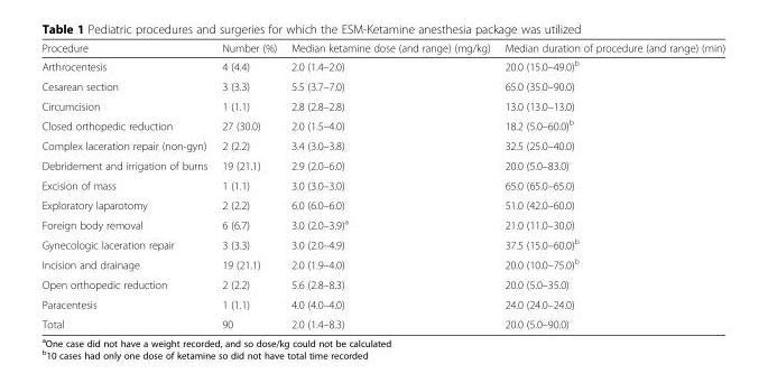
<table><thead><tr><td>Procedure</td><td>Number (%)</td><td>Median ketamine dose (and range) (mg/kg)</td><td>Median duration of procedure (and range) (min)</td></tr></thead><tbody><tr><td>Arthrocentesis</td><td>4 (4.4)</td><td>2.0 (1.4–2.0)</td><td>20.0 (15.0–49.0)<sup>b</sup></td></tr><tr><td>Cesarean section</td><td>3 (3.3)</td><td>5.5 (3.7–7.0)</td><td>65.0 (35.0–90.0)</td></tr><tr><td>Circumcision</td><td>1 (1.1)</td><td>2.8 (2.8–2.8)</td><td>13.0 (13.0–13.0)</td></tr><tr><td>Closed orthopedic reduction</td><td>27 (30.0)</td><td>2.0 (1.5–4.0)</td><td>18.2 (5.0–60.0)<sup>b</sup></td></tr><tr><td>Complex laceration repair (non-gyn)</td><td>2 (2.2)</td><td>3.4 (3.0–3.8)</td><td>32.5 (25.0–40.0)</td></tr><tr><td>Debridement and irrigation of burns</td><td>19 (21.1)</td><td>2.9 (2.0–6.0)</td><td>20.0 (5.0–83.0)</td></tr><tr><td>Excision of mass</td><td>1 (1.1)</td><td>3.0 (3.0–3.0)</td><td>65.0 (65.0–65.0)</td></tr><tr><td>Exploratory laparotomy</td><td>2 (2.2)</td><td>6.0 (6.0–6.0)</td><td>51.0 (42.0–60.0)</td></tr><tr><td>Foreign body removal</td><td>6 (6.7)</td><td>3.0 (2.0–3.9)<sup>a</sup></td><td>21.0 (11.0–30.0)</td></tr><tr><td>Gynecologic laceration repair</td><td>3 (3.3)</td><td>3.0 (2.0–4.9)</td><td>37.5 (15.0–60.0)<sup>b</sup></td></tr><tr><td>Incision and drainage</td><td>19 (21.1)</td><td>2.0 (1.9–4.0)</td><td>20.0 (10.0–75.0)<sup>b</sup></td></tr><tr><td>Open orthopedic reduction</td><td>2 (2.2)</td><td>5.6 (2.8–8.3)</td><td>20.0 (5.0–35.0)</td></tr><tr><td>Paracentesis</td><td>1 (1.1)</td><td>4.0 (4.0–4.0)</td><td>24.0 (24.0–24.0)</td></tr><tr><td>Total</td><td>90</td><td>2.0 (1.4–8.3)</td><td>20.0 (5.0–90.0)</td></tr></tbody></table>